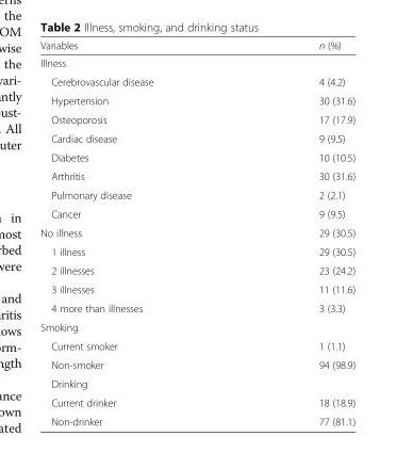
<table><thead><tr><td>Variables</td><td>n (%)</td></tr></thead><tbody><tr><td colspan="2">Illness</td></tr><tr><td>Cerebrovascular disease</td><td>4 (4.2)</td></tr><tr><td>Hypertension</td><td>30 (31.6)</td></tr><tr><td>Osteoporosis</td><td>17 (17.9)</td></tr><tr><td>Cardiac disease</td><td>9 (9.5)</td></tr><tr><td>Diabetes</td><td>10 (10.5)</td></tr><tr><td>Arthritis</td><td>30 (31.6)</td></tr><tr><td>Pulmonary disease</td><td>2 (2.1)</td></tr><tr><td>Cancer</td><td>9 (9.5)</td></tr><tr><td>No illness</td><td>29 (30.5)</td></tr><tr><td>1 illness</td><td>29 (30.5)</td></tr><tr><td>2 illnesses</td><td>23 (24.2)</td></tr><tr><td>3 illnesses</td><td>11 (11.6)</td></tr><tr><td>4 more than illnesses</td><td>3 (3.3)</td></tr><tr><td colspan="2">Smoking</td></tr><tr><td>Current smoker</td><td>1 (1.1)</td></tr><tr><td>Non-smoker</td><td>94 (98.9)</td></tr><tr><td colspan="2">Drinking</td></tr><tr><td>Current drinker</td><td>18 (18.9)</td></tr><tr><td>Non-drinker</td><td>77 (81.1)</td></tr></tbody></table>